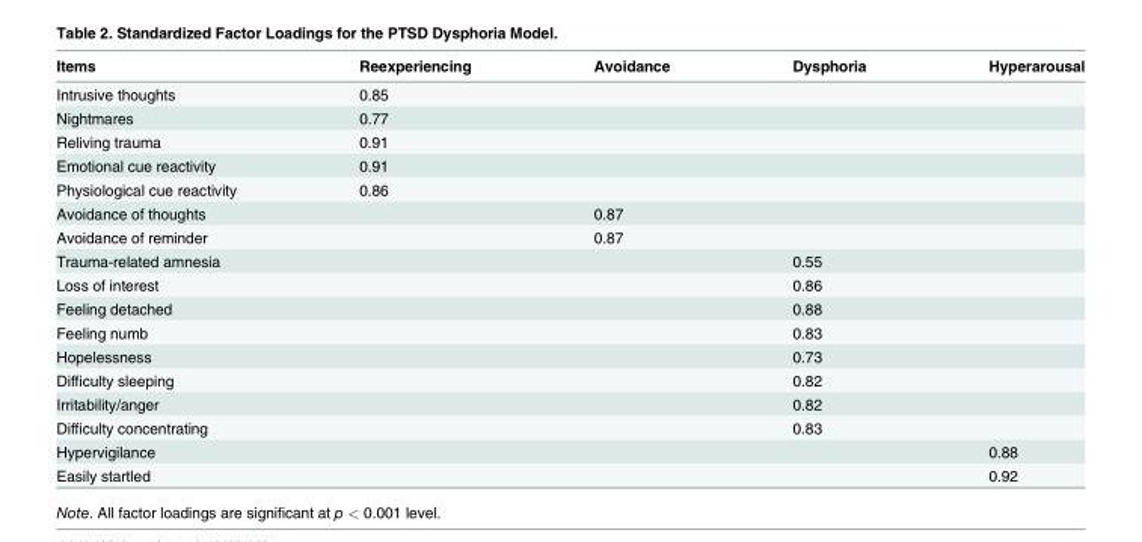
<table><thead><tr><td>Items</td><td>Reexperiencing</td><td>Avoidance</td><td>Dysphoria</td><td>Hyperarousal</td></tr></thead><tbody><tr><td>Intrusive thoughts</td><td>0.85</td><td></td><td></td><td></td></tr><tr><td>Nightmares</td><td>0.77</td><td></td><td></td><td></td></tr><tr><td>Reliving trauma</td><td>0.91</td><td></td><td></td><td></td></tr><tr><td>Emotional cue reactivity</td><td>0.91</td><td></td><td></td><td></td></tr><tr><td>Physiological cue reactivity</td><td>0.86</td><td></td><td></td><td></td></tr><tr><td>Avoidance of thoughts</td><td></td><td>0.87</td><td></td><td></td></tr><tr><td>Avoidance of reminder</td><td></td><td>0.87</td><td></td><td></td></tr><tr><td>Trauma-related amnesia</td><td></td><td></td><td>0.55</td><td></td></tr><tr><td>Loss of interest</td><td></td><td></td><td>0.86</td><td></td></tr><tr><td>Feeling detached</td><td></td><td></td><td>0.88</td><td></td></tr><tr><td>Feeling numb</td><td></td><td></td><td>0.83</td><td></td></tr><tr><td>Hopelessness</td><td></td><td></td><td>0.73</td><td></td></tr><tr><td>Difficulty sleeping</td><td></td><td></td><td>0.82</td><td></td></tr><tr><td>Irritability/anger</td><td></td><td></td><td>0.82</td><td></td></tr><tr><td>Difficulty concentrating</td><td></td><td></td><td>0.83</td><td></td></tr><tr><td>Hypervigilance</td><td></td><td></td><td></td><td>0.88</td></tr><tr><td>Easily startled</td><td></td><td></td><td></td><td>0.92</td></tr></tbody></table>